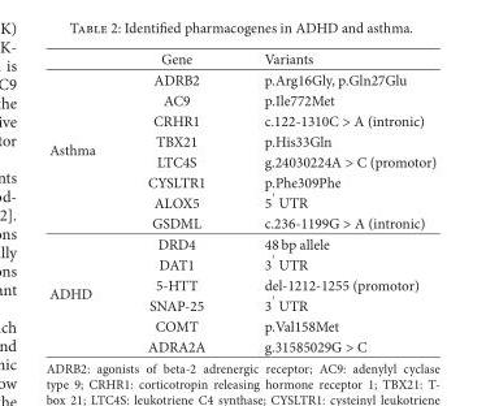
<table><thead><tr><td></td><td>Gene</td><td>Variants</td></tr></thead><tbody><tr><td rowspan="8">Asthma</td><td>ADRB2</td><td>p.Arg16Gly, p.Gln27Glu</td></tr><tr><td>AC9</td><td>p.Ile772Met</td></tr><tr><td>CRHR1</td><td>c.122-1310C &gt; A (intronic)</td></tr><tr><td>TBX21</td><td>p.His33Gln</td></tr><tr><td>LTC4S</td><td>g.24030224A &gt; C (promotor)</td></tr><tr><td>CYSLTR1</td><td>p.Phe309Phe</td></tr><tr><td>ALOX5</td><td>5′ UTR</td></tr><tr><td>GSDML</td><td>c.236-1199G &gt; A (intronic)</td></tr><tr><td rowspan="6">ADHD</td><td>DRD4</td><td>48 bp allele</td></tr><tr><td>DAT1</td><td>3′ UTR</td></tr><tr><td>5-HTT</td><td>del-1212-1255 (promotor)</td></tr><tr><td>SNAP-25</td><td>3′ UTR</td></tr><tr><td>COMT</td><td>p.Val158Met</td></tr><tr><td>ADRA2A</td><td>g.31585029G &gt; C</td></tr></tbody></table>